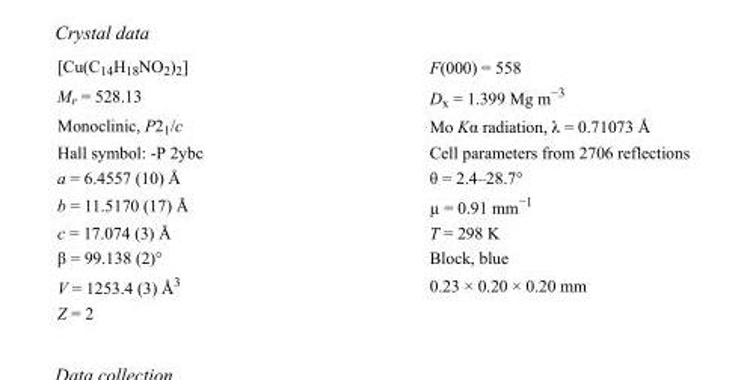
<table><tbody><tr><td>[Cu(C<sub>14</sub>H<sub>18</sub>NO<sub>2</sub>)<sub>2</sub>]</td><td>F(000) = 558</td></tr><tr><td>M<sub>r</sub> = 528.13</td><td>D<sub>x</sub> = 1.399 Mg m<sup>−3</sup></td></tr><tr><td>Monoclinic, P2<sub>1</sub>/c</td><td>Mo Kα radiation, λ = 0.71073 Å</td></tr><tr><td>Hall symbol: -P 2ybc</td><td>Cell parameters from 2706 reflections</td></tr><tr><td>a = 6.4557 (10) Å</td><td>θ = 2.4–28.7°</td></tr><tr><td>b = 11.5170 (17) Å</td><td>µ = 0.91 mm<sup>−1</sup></td></tr><tr><td>c = 17.074 (3) Å</td><td>T = 298 K</td></tr><tr><td>β = 99.138 (2)°</td><td>Block, blue</td></tr><tr><td>V = 1253.4 (3) Å<sup>3</sup></td><td>0.23 × 0.20 × 0.20 mm</td></tr><tr><td>Z = 2</td><td></td></tr></tbody></table>